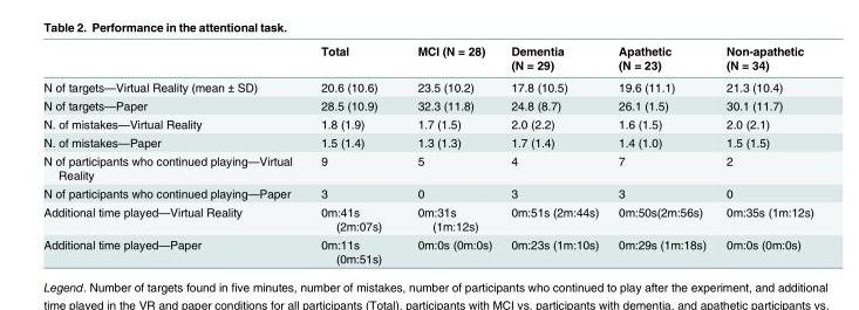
<table><thead><tr><td></td><td>Total</td><td>MCI (N = 28)</td><td>Dementia (N = 29)</td><td>Apathetic (N = 23)</td><td>Non-apathetic (N = 34)</td></tr></thead><tbody><tr><td>N of targets—Virtual Reality (mean ± SD)</td><td>20.6 (10.6)</td><td>23.5 (10.2)</td><td>17.8 (10.5)</td><td>19.6 (11.1)</td><td>21.3 (10.4)</td></tr><tr><td>N of targets—Paper</td><td>28.5 (10.9)</td><td>32.3 (11.8)</td><td>24.8 (8.7)</td><td>26.1 (1.5)</td><td>30.1 (11.7)</td></tr><tr><td>N. of mistakes—Virtual Reality</td><td>1.8 (1.9)</td><td>1.7 (1.5)</td><td>2.0 (2.2)</td><td>1.6 (1.5)</td><td>2.0 (2.1)</td></tr><tr><td>N. of mistakes—Paper</td><td>1.5 (1.4)</td><td>1.3 (1.3)</td><td>1.7 (1.4)</td><td>1.4 (1.0)</td><td>1.5 (1.5)</td></tr><tr><td>N of participants who continued playing—Virtual Reality</td><td>9</td><td>5</td><td>4</td><td>7</td><td>2</td></tr><tr><td>N of participants who continued playing—Paper</td><td>3</td><td>0</td><td>3</td><td>3</td><td>0</td></tr><tr><td>Additional time played—Virtual Reality</td><td>0m:41s (2m:07s)</td><td>0m:31s (1m:12s)</td><td>0m:51s (2m:44s)</td><td>0m:50s(2m:56s)</td><td>0m:35s (1m:12s)</td></tr><tr><td>Additional time played—Paper</td><td>0m:11s (0m:51s)</td><td>0m:0s (0m:0s)</td><td>0m:23s (1m:10s)</td><td>0m:29s (1m:18s)</td><td>0m:0s (0m:0s)</td></tr></tbody></table>